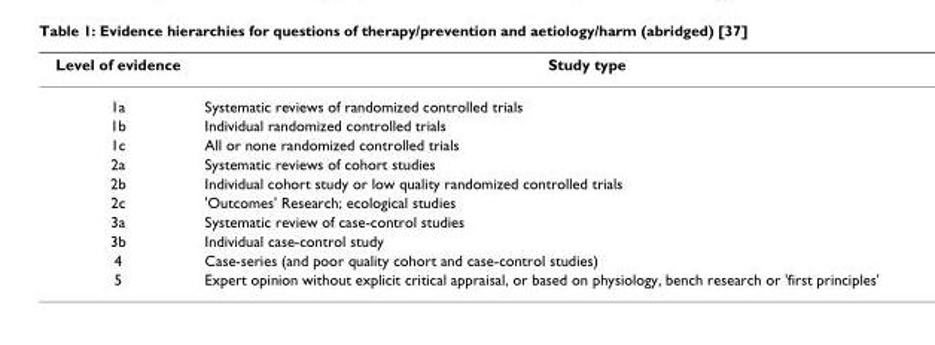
<table><thead><tr><td>Level of evidence</td><td>Study type</td></tr></thead><tbody><tr><td>1a</td><td>Systematic reviews of randomized controlled trials</td></tr><tr><td>1b</td><td>Individual randomized controlled trials</td></tr><tr><td>1c</td><td>All or none randomized controlled trials</td></tr><tr><td>2a</td><td>Systematic reviews of cohort studies</td></tr><tr><td>2b</td><td>Individual cohort study or low quality randomized controlled trials</td></tr><tr><td>2c</td><td>&#x27;Outcomes&#x27; Research; ecological studies</td></tr><tr><td>3a</td><td>Systematic review of case-control studies</td></tr><tr><td>3b</td><td>Individual case-control study</td></tr><tr><td>4</td><td>Case-series (and poor quality cohort and case-control studies)</td></tr><tr><td>5</td><td>Expert opinion without explicit critical appraisal, or based on physiology, bench research or &#x27;first principles&#x27;</td></tr></tbody></table>